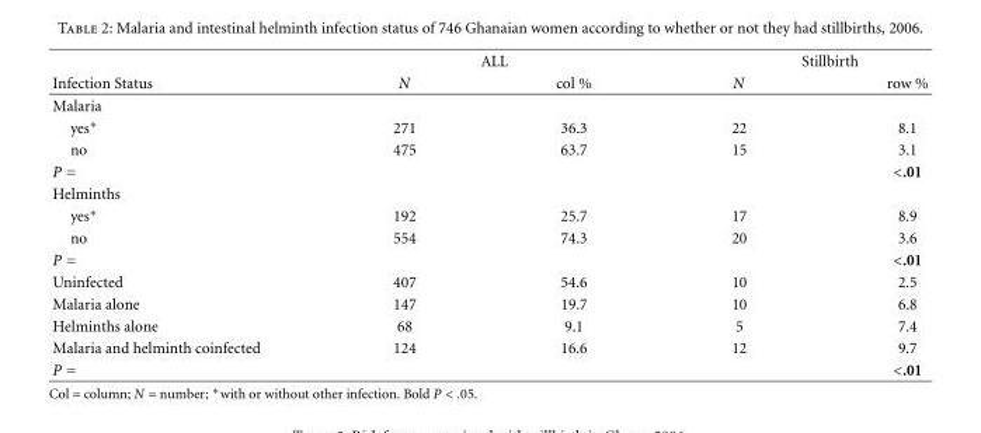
<table><thead><tr><td rowspan="2">Infection Status</td><td colspan="2">ALL</td><td colspan="2">Stillbirth</td></tr><tr><td>N</td><td>col %</td><td>N</td><td>row %</td></tr></thead><tbody><tr><td colspan="5">Malaria</td></tr><tr><td>yes∗</td><td>271</td><td>36.3</td><td>22</td><td>8.1</td></tr><tr><td>no</td><td>475</td><td>63.7</td><td>15</td><td>3.1</td></tr><tr><td>P =</td><td></td><td></td><td></td><td>&lt;.01</td></tr><tr><td colspan="5">Helminths</td></tr><tr><td>yes∗</td><td>192</td><td>25.7</td><td>17</td><td>8.9</td></tr><tr><td>no</td><td>554</td><td>74.3</td><td>20</td><td>3.6</td></tr><tr><td>P =</td><td></td><td></td><td></td><td>&lt;.01</td></tr><tr><td>Uninfected</td><td>407</td><td>54.6</td><td>10</td><td>2.5</td></tr><tr><td>Malaria alone</td><td>147</td><td>19.7</td><td>10</td><td>6.8</td></tr><tr><td>Helminths alone</td><td>68</td><td>9.1</td><td>5</td><td>7.4</td></tr><tr><td>Malaria and helminth coinfected</td><td>124</td><td>16.6</td><td>12</td><td>9.7</td></tr><tr><td>P =</td><td></td><td></td><td></td><td>&lt;.01</td></tr></tbody></table>